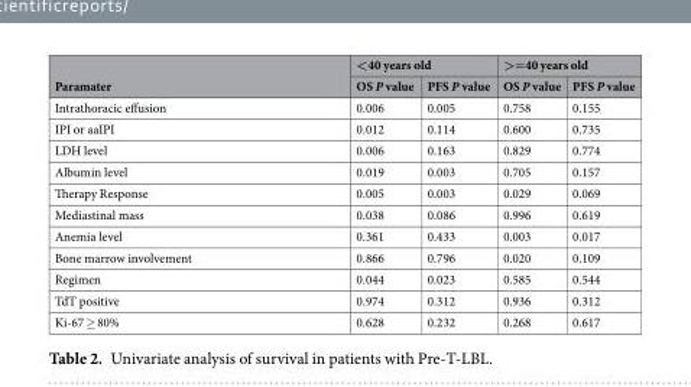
<table><thead><tr><td rowspan="2">Paramater</td><td colspan="2">&lt;40 years old</td><td colspan="2">&gt;=40 years old</td></tr><tr><td>OS P value</td><td>PFS P value</td><td>OS P value</td><td>PFS P value</td></tr></thead><tbody><tr><td>Intrathoracic effusion</td><td>0.006</td><td>0.005</td><td>0.758</td><td>0.155</td></tr><tr><td>IPI or aaIPI</td><td>0.012</td><td>0.114</td><td>0.600</td><td>0.735</td></tr><tr><td>LDH level</td><td>0.006</td><td>0.163</td><td>0.829</td><td>0.774</td></tr><tr><td>Albumin level</td><td>0.019</td><td>0.003</td><td>0.705</td><td>0.157</td></tr><tr><td>Therapy Response</td><td>0.005</td><td>0.003</td><td>0.029</td><td>0.069</td></tr><tr><td>Mediastinal mass</td><td>0.038</td><td>0.086</td><td>0.996</td><td>0.619</td></tr><tr><td>Anemia level</td><td>0.361</td><td>0.433</td><td>0.003</td><td>0.017</td></tr><tr><td>Bone marrow involvement</td><td>0.866</td><td>0.796</td><td>0.020</td><td>0.109</td></tr><tr><td>Regimen</td><td>0.044</td><td>0.023</td><td>0.585</td><td>0.544</td></tr><tr><td>TdT positive</td><td>0.974</td><td>0.312</td><td>0.936</td><td>0.312</td></tr><tr><td>Ki-67 ≥ 80%</td><td>0.628</td><td>0.232</td><td>0.268</td><td>0.617</td></tr></tbody></table>